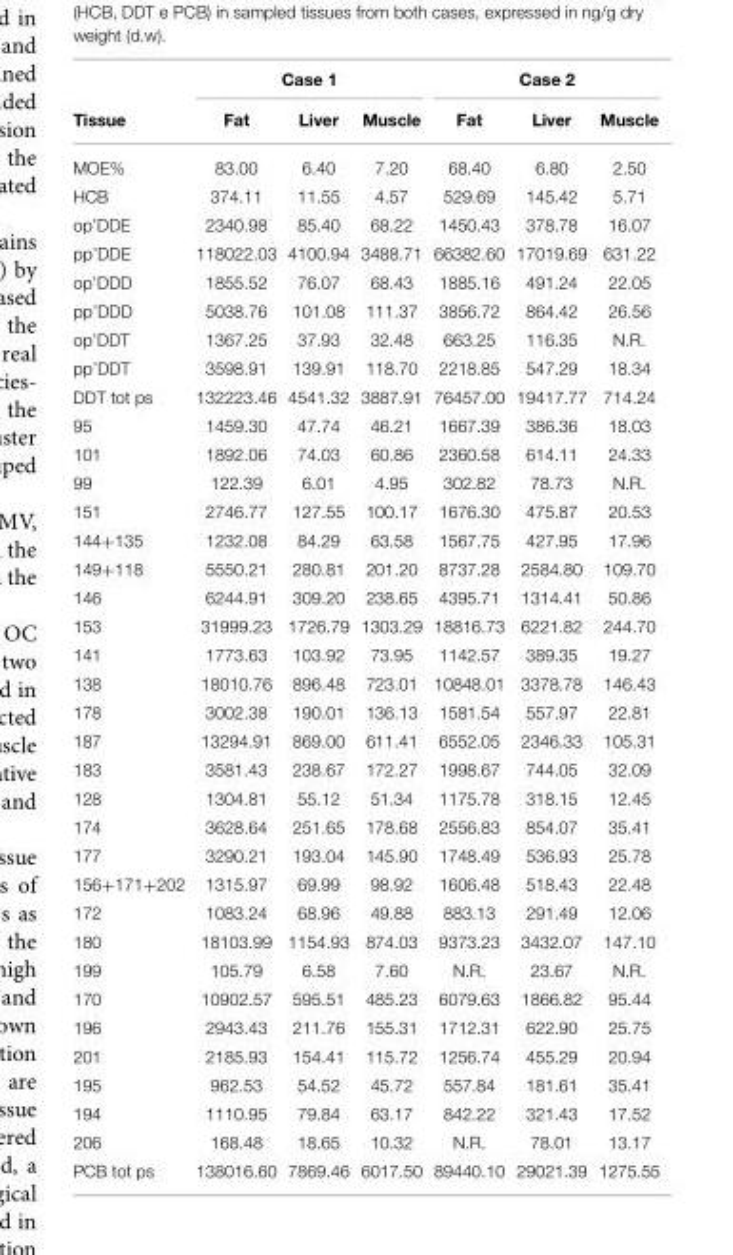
<table><thead><tr><td rowspan="2">Tissue</td><td colspan="3">Case 1</td><td colspan="3">Case 2</td></tr><tr><td>Fat</td><td>Liver</td><td>Muscle</td><td>Fat</td><td>Liver</td><td>Muscle</td></tr></thead><tbody><tr><td>MOE%</td><td>83.00</td><td>6.40</td><td>7.20</td><td>68.40</td><td>6.80</td><td>2.50</td></tr><tr><td>HCB</td><td>374.11</td><td>11.55</td><td>4.57</td><td>529.69</td><td>145.42</td><td>5.71</td></tr><tr><td>op’DDE</td><td>2340.98</td><td>85.40</td><td>68.22</td><td>1450.43</td><td>378.78</td><td>16.07</td></tr><tr><td>pp’DDE</td><td>118022.03</td><td>4100.94</td><td>3488.71</td><td>66382.60</td><td>17019.69</td><td>631.22</td></tr><tr><td>op’DDD</td><td>1855.52</td><td>76.07</td><td>68.43</td><td>1885.16</td><td>491.24</td><td>22.05</td></tr><tr><td>pp’DDD</td><td>5038.76</td><td>101.08</td><td>111.37</td><td>3856.72</td><td>864.42</td><td>26.56</td></tr><tr><td>op’DDT</td><td>1367.25</td><td>37.93</td><td>32.48</td><td>663.25</td><td>116.35</td><td>N.R.</td></tr><tr><td>pp’DDT</td><td>3598.91</td><td>139.91</td><td>118.70</td><td>2218.85</td><td>547.29</td><td>18.34</td></tr><tr><td>DDT tot ps</td><td>132223.46</td><td>4541.32</td><td>3887.91</td><td>76457.00</td><td>19417.77</td><td>714.24</td></tr><tr><td>95</td><td>1459.30</td><td>47.74</td><td>46.21</td><td>1667.39</td><td>386.36</td><td>18.03</td></tr><tr><td>101</td><td>1892.06</td><td>74.03</td><td>60.86</td><td>2360.58</td><td>614.11</td><td>24.33</td></tr><tr><td>99</td><td>122.39</td><td>6.01</td><td>4.95</td><td>302.82</td><td>78.73</td><td>N.R.</td></tr><tr><td>151</td><td>2746.77</td><td>127.55</td><td>100.17</td><td>1676.30</td><td>475.87</td><td>20.53</td></tr><tr><td>144+135</td><td>1232.08</td><td>84.29</td><td>63.58</td><td>1567.75</td><td>427.95</td><td>17.96</td></tr><tr><td>149+118</td><td>5550.21</td><td>280.81</td><td>201.20</td><td>8737.28</td><td>2584.80</td><td>109.70</td></tr><tr><td>146</td><td>6244.91</td><td>309.20</td><td>238.65</td><td>4395.71</td><td>1314.41</td><td>50.86</td></tr><tr><td>153</td><td>31999.23</td><td>1726.79</td><td>1303.29</td><td>18816.73</td><td>6221.82</td><td>244.70</td></tr><tr><td>141</td><td>1773.63</td><td>103.92</td><td>73.95</td><td>1142.57</td><td>389.35</td><td>19.27</td></tr><tr><td>138</td><td>18010.76</td><td>896.48</td><td>723.01</td><td>10848.01</td><td>3378.78</td><td>146.43</td></tr><tr><td>178</td><td>3002.38</td><td>190.01</td><td>136.13</td><td>1581.54</td><td>557.97</td><td>22.81</td></tr><tr><td>187</td><td>13294.91</td><td>869.00</td><td>611.41</td><td>6552.05</td><td>2346.33</td><td>105.31</td></tr><tr><td>183</td><td>3581.43</td><td>238.67</td><td>172.27</td><td>1998.67</td><td>744.05</td><td>32.09</td></tr><tr><td>128</td><td>1304.81</td><td>55.12</td><td>51.34</td><td>1175.78</td><td>318.15</td><td>12.45</td></tr><tr><td>174</td><td>3628.64</td><td>251.65</td><td>178.68</td><td>2556.83</td><td>854.07</td><td>35.41</td></tr><tr><td>177</td><td>3290.21</td><td>193.04</td><td>145.90</td><td>1748.49</td><td>536.93</td><td>25.78</td></tr><tr><td>156+171+202</td><td>1315.97</td><td>69.99</td><td>98.92</td><td>1606.48</td><td>518.43</td><td>22.48</td></tr><tr><td>172</td><td>1083.24</td><td>68.96</td><td>49.88</td><td>883.13</td><td>291.49</td><td>12.06</td></tr><tr><td>180</td><td>18103.99</td><td>1154.93</td><td>874.03</td><td>9373.23</td><td>3432.07</td><td>147.10</td></tr><tr><td>199</td><td>105.79</td><td>6.58</td><td>7.60</td><td>N.R.</td><td>23.67</td><td>N.R.</td></tr><tr><td>170</td><td>10902.57</td><td>595.51</td><td>485.23</td><td>6079.63</td><td>1866.82</td><td>95.44</td></tr><tr><td>196</td><td>2943.43</td><td>211.76</td><td>155.31</td><td>1712.31</td><td>622.90</td><td>25.75</td></tr><tr><td>201</td><td>2185.93</td><td>154.41</td><td>115.72</td><td>1256.74</td><td>455.29</td><td>20.94</td></tr><tr><td>195</td><td>962.53</td><td>54.52</td><td>45.72</td><td>557.84</td><td>181.61</td><td>35.41</td></tr><tr><td>194</td><td>1110.95</td><td>79.84</td><td>63.17</td><td>842.22</td><td>321.43</td><td>17.52</td></tr><tr><td>206</td><td>168.48</td><td>18.65</td><td>10.32</td><td>N.R.</td><td>78.01</td><td>13.17</td></tr><tr><td>PCB tot ps</td><td>138016.60</td><td>7869.46</td><td>6017.50</td><td>89440.10</td><td>29021.39</td><td>1275.55</td></tr></tbody></table>